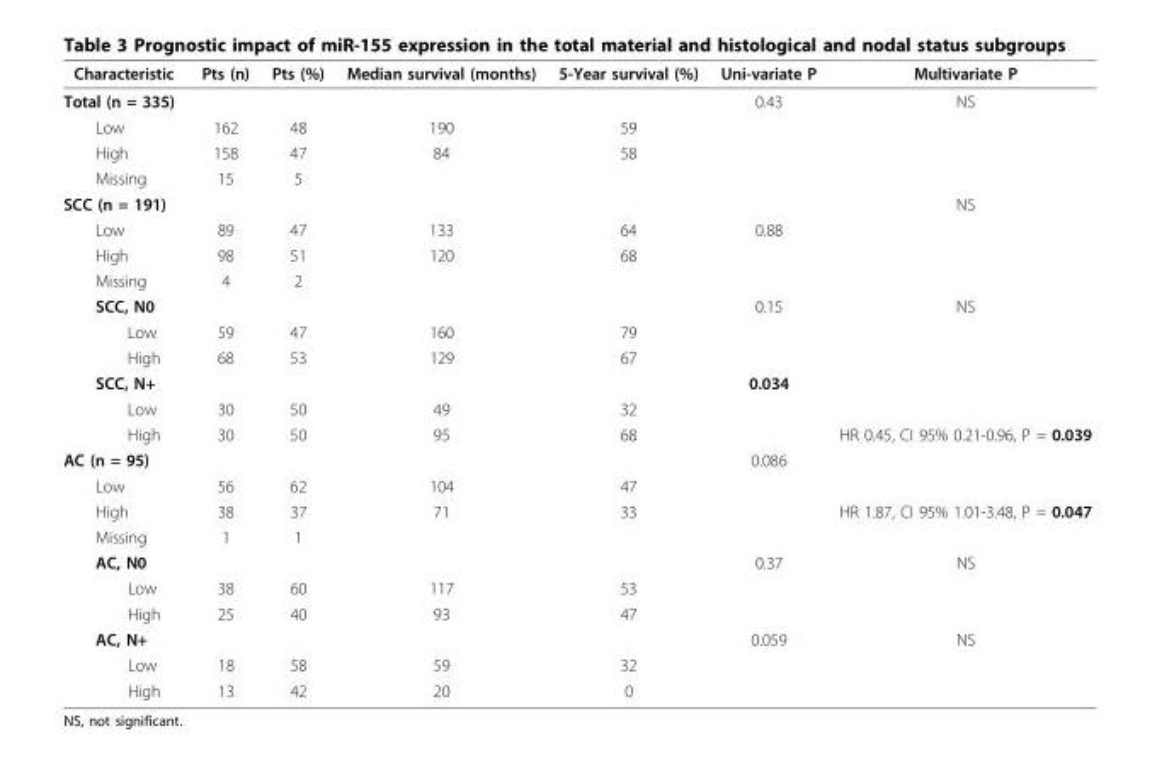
<table><thead><tr><td>Characteristic</td><td>Pts (n)</td><td>Pts (%)</td><td>Median survival (months)</td><td>5-Year survival (%)</td><td>Uni-variate P</td><td>Multivariate P</td></tr></thead><tbody><tr><td>Total (n = 335)</td><td></td><td></td><td></td><td></td><td>0.43</td><td>NS</td></tr><tr><td>Low</td><td>162</td><td>48</td><td>190</td><td>59</td><td></td><td></td></tr><tr><td>High</td><td>158</td><td>47</td><td>84</td><td>58</td><td></td><td></td></tr><tr><td>Missing</td><td>15</td><td>5</td><td></td><td></td><td></td><td></td></tr><tr><td>SCC (n = 191)</td><td></td><td></td><td></td><td></td><td></td><td>NS</td></tr><tr><td>Low</td><td>89</td><td>47</td><td>133</td><td>64</td><td>0.88</td><td></td></tr><tr><td>High</td><td>98</td><td>51</td><td>120</td><td>68</td><td></td><td></td></tr><tr><td>Missing</td><td>4</td><td>2</td><td></td><td></td><td></td><td></td></tr><tr><td>SCC, N0</td><td></td><td></td><td></td><td></td><td>0.15</td><td>NS</td></tr><tr><td>Low</td><td>59</td><td>47</td><td>160</td><td>79</td><td></td><td></td></tr><tr><td>High</td><td>68</td><td>53</td><td>129</td><td>67</td><td></td><td></td></tr><tr><td>SCC, N+</td><td></td><td></td><td></td><td></td><td>0.034</td><td></td></tr><tr><td>Low</td><td>30</td><td>50</td><td>49</td><td>32</td><td></td><td></td></tr><tr><td>High</td><td>30</td><td>50</td><td>95</td><td>68</td><td></td><td>HR 0.45, CI 95% 0.21-0.96, P = 0.039</td></tr><tr><td>AC (n = 95)</td><td></td><td></td><td></td><td></td><td>0.086</td><td></td></tr><tr><td>Low</td><td>56</td><td>62</td><td>104</td><td>47</td><td></td><td></td></tr><tr><td>High</td><td>38</td><td>37</td><td>71</td><td>33</td><td></td><td>HR 1.87, CI 95% 1.01-3.48, P = 0.047</td></tr><tr><td>Missing</td><td>1</td><td>1</td><td></td><td></td><td></td><td></td></tr><tr><td>AC, N0</td><td></td><td></td><td></td><td></td><td>0.37</td><td>NS</td></tr><tr><td>Low</td><td>38</td><td>60</td><td>117</td><td>53</td><td></td><td></td></tr><tr><td>High</td><td>25</td><td>40</td><td>93</td><td>47</td><td></td><td></td></tr><tr><td>AC, N+</td><td></td><td></td><td></td><td></td><td>0.059</td><td>NS</td></tr><tr><td>Low</td><td>18</td><td>58</td><td>59</td><td>32</td><td></td><td></td></tr><tr><td>High</td><td>13</td><td>42</td><td>20</td><td>0</td><td></td><td></td></tr></tbody></table>